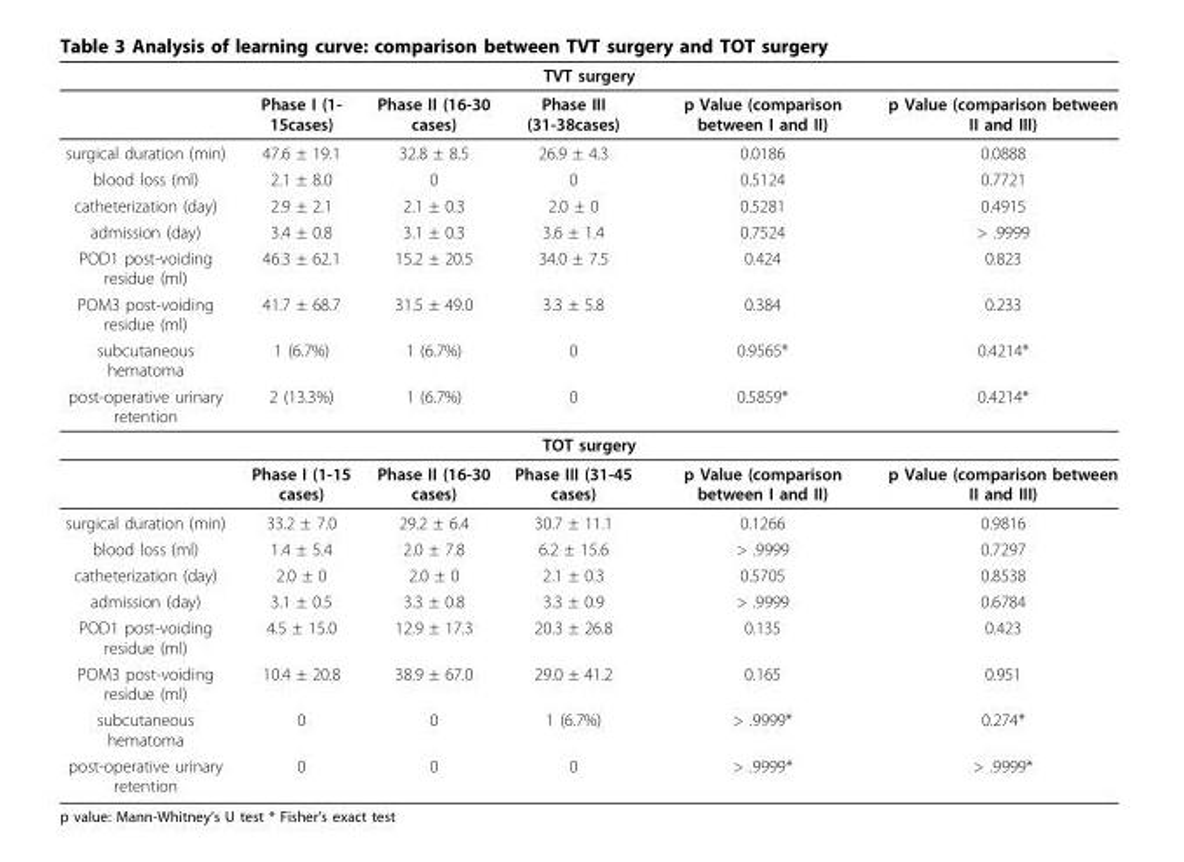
<table><thead><tr><td colspan="6">TVT surgery</td></tr><tr><td></td><td>Phase I (1- 15cases)</td><td>Phase II (16-30 cases)</td><td>Phase III (31-38cases)</td><td>p Value (comparison between I and II)</td><td>p Value (comparison between II and III)</td></tr></thead><tbody><tr><td>surgical duration (min)</td><td>47.6 ± 19.1</td><td>32.8 ± 8.5</td><td>26.9 ± 4.3</td><td>0.0186</td><td>0.0888</td></tr><tr><td>blood loss (ml)</td><td>2.1 ± 8.0</td><td>0</td><td>0</td><td>0.5124</td><td>0.7721</td></tr><tr><td>catheterization (day)</td><td>2.9 ± 2.1</td><td>2.1 ± 0.3</td><td>2.0 ± 0</td><td>0.5281</td><td>0.4915</td></tr><tr><td>admission (day)</td><td>3.4 ± 0.8</td><td>3.1 ± 0.3</td><td>3.6 ± 1.4</td><td>0.7524</td><td>&gt; .9999</td></tr><tr><td>POD1 post-voiding residue (ml)</td><td>46.3 ± 62.1</td><td>15.2 ± 20.5</td><td>34.0 ± 7.5</td><td>0.424</td><td>0.823</td></tr><tr><td>POM3 post-voiding residue (ml)</td><td>41.7 ± 68.7</td><td>31.5 ± 49.0</td><td>3.3 ± 5.8</td><td>0.384</td><td>0.233</td></tr><tr><td>subcutaneous hematoma</td><td>1 (6.7%)</td><td>1 (6.7%)</td><td>0</td><td>0.9565*</td><td>0.4214*</td></tr><tr><td>post-operative urinary retention</td><td>2 (13.3%)</td><td>1 (6.7%)</td><td>0</td><td>0.5859*</td><td>0.4214*</td></tr><tr><td colspan="6">TOT surgery</td></tr><tr><td></td><td>Phase I (1-15 cases)</td><td>Phase II (16-30 cases)</td><td>Phase III (31-45 cases)</td><td>p Value (comparison between I and II)</td><td>p Value (comparison between II and III)</td></tr><tr><td>surgical duration (min)</td><td>33.2 ± 7.0</td><td>29.2 ± 6.4</td><td>30.7 ± 11.1</td><td>0.1266</td><td>0.9816</td></tr><tr><td>blood loss (ml)</td><td>1.4 ± 5.4</td><td>2.0 ± 7.8</td><td>6.2 ± 15.6</td><td>&gt; .9999</td><td>0.7297</td></tr><tr><td>catheterization (day)</td><td>2.0 ± 0</td><td>2.0 ± 0</td><td>2.1 ± 0.3</td><td>0.5705</td><td>0.8538</td></tr><tr><td>admission (day)</td><td>3.1 ± 0.5</td><td>3.3 ± 0.8</td><td>3.3 ± 0.9</td><td>&gt; .9999</td><td>0.6784</td></tr><tr><td>POD1 post-voiding residue (ml)</td><td>4.5 ± 15.0</td><td>12.9 ± 17.3</td><td>20.3 ± 26.8</td><td>0.135</td><td>0.423</td></tr><tr><td>POM3 post-voiding residue (ml)</td><td>10.4 ± 20.8</td><td>38.9 ± 67.0</td><td>29.0 ± 41.2</td><td>0.165</td><td>0.951</td></tr><tr><td>subcutaneous hematoma</td><td>0</td><td>0</td><td>1 (6.7%)</td><td>&gt; .9999*</td><td>0.274*</td></tr><tr><td>post-operative urinary retention</td><td>0</td><td>0</td><td>0</td><td>&gt; .9999*</td><td>&gt; .9999*</td></tr></tbody></table>